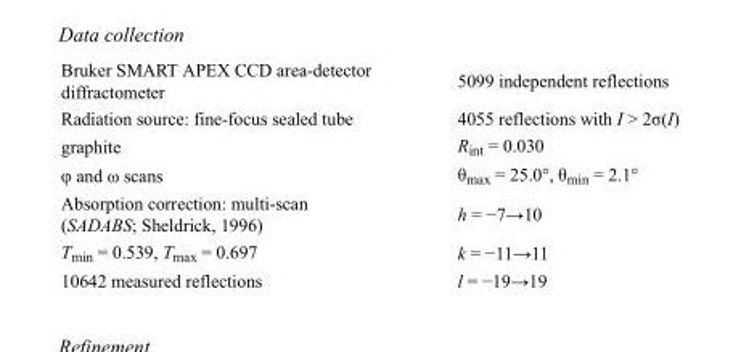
<table><tbody><tr><td>Bruker SMART APEX CCD area-detector diffractometer</td><td>5099 independent reflections</td></tr><tr><td>Radiation source: fine-focus sealed tube</td><td>4055 reflections with I &gt; 2σ(I)</td></tr><tr><td>graphite</td><td>R<sub>int</sub> = 0.030</td></tr><tr><td>φ and ω scans</td><td>θ<sub>max</sub> = 25.0°, θ<sub>min</sub> = 2.1°</td></tr><tr><td>Absorption correction: multi-scan (SADABS; Sheldrick, 1996)</td><td>h = −7→10</td></tr><tr><td>T<sub>min</sub> = 0.539, T<sub>max</sub> = 0.697</td><td>k = −11→11</td></tr><tr><td>10642 measured reflections</td><td>l = −19→19</td></tr></tbody></table>